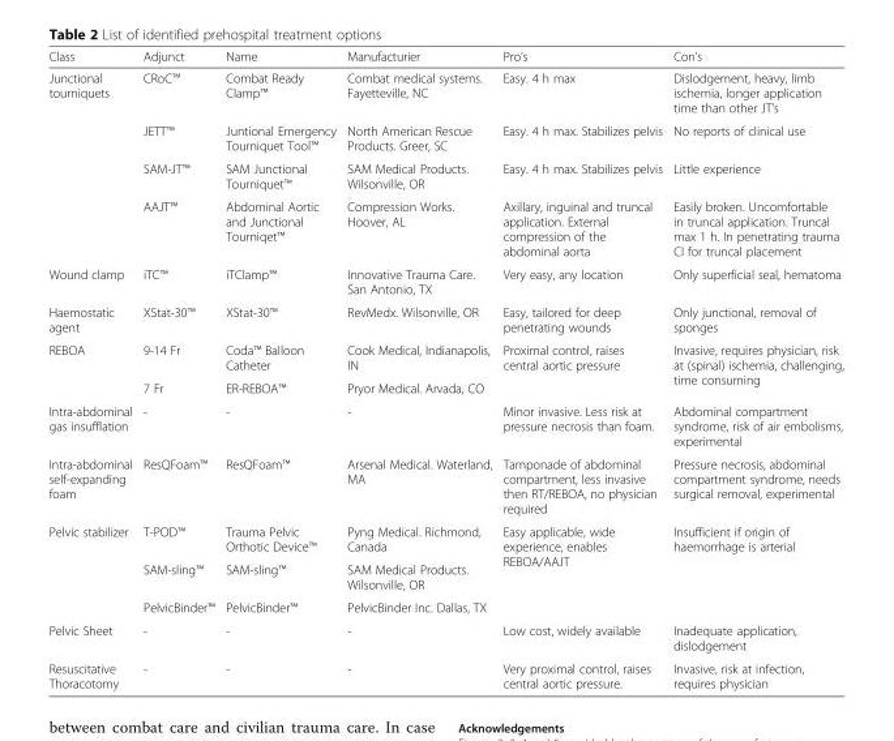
<table><thead><tr><td>Class</td><td>Adjunct</td><td>Name</td><td>Manufacturier</td><td>Pro’s</td><td>Con’s</td></tr></thead><tbody><tr><td rowspan="4">Junctional tourniquets</td><td>CRoC™</td><td>Combat Ready Clamp™</td><td>Combat medical systems. Fayetteville, NC</td><td>Easy. 4 h max</td><td>Dislodgement, heavy, limb ischemia, longer application time than other JT’s</td></tr><tr><td>JETT™</td><td>Juntional Emergency Tourniquet Tool™</td><td>North American Rescue Products. Greer, SC</td><td>Easy. 4 h max. Stabilizes pelvis</td><td>No reports of clinical use</td></tr><tr><td>SAM-JT™</td><td>SAM Junctional Tourniquet™</td><td>SAM Medical Products. Wilsonville, OR</td><td>Easy. 4 h max. Stabilizes pelvis</td><td>Little experience</td></tr><tr><td>AAJT™</td><td>Abdominal Aortic and Junctional Tourniqet™</td><td>Compression Works. Hoover, AL</td><td>Axillary, inguinal and truncal application. External compression of the abdominal aorta</td><td>Easily broken. Uncomfortable in truncal application. Truncal max 1 h. In penetrating trauma CI for truncal placement</td></tr><tr><td>Wound clamp</td><td>iTC™</td><td>iTClamp™</td><td>Innovative Trauma Care. San Antonio, TX</td><td>Very easy, any location</td><td>Only superficial seal, hematoma</td></tr><tr><td>Haemostatic agent</td><td>XStat-30™</td><td>XStat-30™</td><td>RevMedx. Wilsonville, OR</td><td>Easy, tailored for deep penetrating wounds</td><td>Only junctional, removal of sponges</td></tr><tr><td rowspan="2">REBOA</td><td>9-14 Fr</td><td>Coda™ Balloon Catheter</td><td>Cook Medical, Indianapolis, IN</td><td rowspan="2">Proximal control, raises central aortic pressure</td><td rowspan="2">Invasive, requires physician, risk at (spinal) ischemia, challenging, time consuming</td></tr><tr><td>7 Fr</td><td>ER-REBOA™</td><td>Pryor Medical. Arvada, CO</td></tr><tr><td>Intra-abdominal gas insufflation</td><td>-</td><td>-</td><td>-</td><td>Minor invasive. Less risk at pressure necrosis than foam.</td><td>Abdominal compartment syndrome, risk of air embolisms, experimental</td></tr><tr><td>Intra-abdominal self-expanding foam</td><td>ResQFoam™</td><td>ResQFoam™</td><td>Arsenal Medical. Waterland, MA</td><td>Tamponade of abdominal compartment, less invasive then RT/REBOA, no physician required</td><td>Pressure necrosis, abdominal compartment syndrome, needs surgical removal, experimental</td></tr><tr><td rowspan="3">Pelvic stabilizer</td><td>T-POD™</td><td>Trauma Pelvic Orthotic Device™</td><td>Pyng Medical. Richmond, Canada</td><td rowspan="3">Easy applicable, wide experience, enables REBOA/AAJT</td><td rowspan="3">Insufficient if origin of haemorrhage is arterial</td></tr><tr><td>SAM-sling™</td><td>SAM-sling™</td><td>SAM Medical Products. Wilsonville, OR</td></tr><tr><td>PelvicBinder™</td><td>PelvicBinder™</td><td>PelvicBinder Inc. Dallas, TX</td></tr><tr><td>Pelvic Sheet</td><td>-</td><td>-</td><td>-</td><td>Low cost, widely available</td><td>Inadequate application, dislodgement</td></tr><tr><td>Resuscitative Thoracotomy</td><td>-</td><td>-</td><td>-</td><td>Very proximal control, raises central aortic pressure.</td><td>Invasive, risk at infection, requires physician</td></tr></tbody></table>